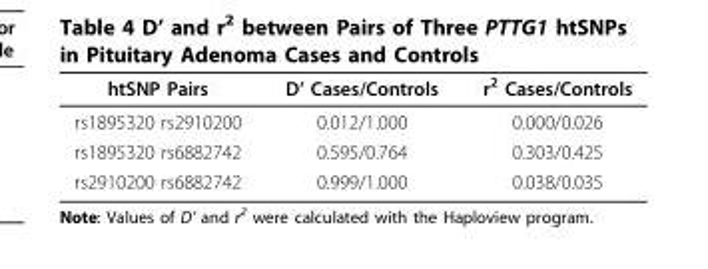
<table><thead><tr><td>htSNP Pairs</td><td>D’ Cases/Controls</td><td>r<sup>2</sup> Cases/Controls</td></tr></thead><tbody><tr><td>rs1895320 rs2910200</td><td>0.012/1.000</td><td>0.000/0.026</td></tr><tr><td>rs1895320 rs6882742</td><td>0.595/0.764</td><td>0.303/0.425</td></tr><tr><td>rs2910200 rs6882742</td><td>0.999/1.000</td><td>0.038/0.035</td></tr></tbody></table>